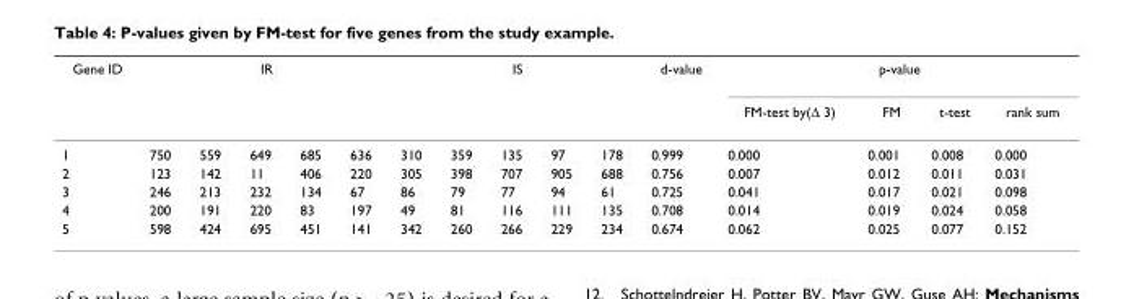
<table><thead><tr><td rowspan="2">Gene ID</td><td colspan="5">IR</td><td colspan="5">IS</td><td rowspan="2">d-value</td><td colspan="4">p-value</td></tr><tr><td></td><td></td><td></td><td></td><td></td><td></td><td></td><td></td><td></td><td></td><td>FM-test by(Δ 3)</td><td>FM</td><td>t-test</td><td>rank sum</td></tr></thead><tbody><tr><td>1</td><td>750</td><td>559</td><td>649</td><td>685</td><td>636</td><td>310</td><td>359</td><td>135</td><td>97</td><td>178</td><td>0.999</td><td>0.000</td><td>0.001</td><td>0.008</td><td>0.000</td></tr><tr><td>2</td><td>123</td><td>142</td><td>11</td><td>406</td><td>220</td><td>305</td><td>398</td><td>707</td><td>905</td><td>688</td><td>0.756</td><td>0.007</td><td>0.012</td><td>0.011</td><td>0.031</td></tr><tr><td>3</td><td>246</td><td>213</td><td>232</td><td>134</td><td>67</td><td>86</td><td>79</td><td>77</td><td>94</td><td>61</td><td>0.725</td><td>0.041</td><td>0.017</td><td>0.021</td><td>0.098</td></tr><tr><td>4</td><td>200</td><td>191</td><td>220</td><td>83</td><td>197</td><td>49</td><td>81</td><td>116</td><td>111</td><td>135</td><td>0.708</td><td>0.014</td><td>0.019</td><td>0.024</td><td>0.058</td></tr><tr><td>5</td><td>598</td><td>424</td><td>695</td><td>451</td><td>141</td><td>342</td><td>260</td><td>266</td><td>229</td><td>234</td><td>0.674</td><td>0.062</td><td>0.025</td><td>0.077</td><td>0.152</td></tr></tbody></table>